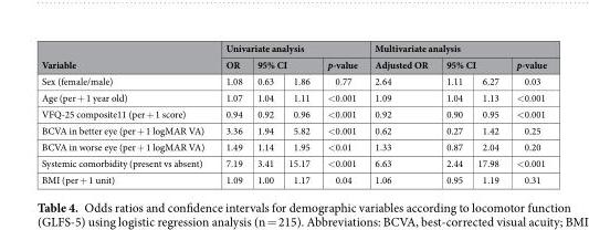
<table><thead><tr><td rowspan="3">Variable Sex (female/male)</td><td colspan="4">Univariate analysis</td><td colspan="4">Multivariate analysis</td></tr><tr><td rowspan="2">OR 1.08</td><td colspan="2">95% CI</td><td rowspan="2">p-value 0.77</td><td rowspan="2">Adjusted OR 2.64</td><td colspan="2">95% CI</td><td rowspan="2">p-value 0.03</td></tr><tr><td>0.63</td><td>1.86</td><td>1.11</td><td>6.27</td></tr></thead><tbody><tr><td>Age (per + 1 year old)</td><td>1.07</td><td>1.04</td><td>1.11</td><td>&lt;0.001</td><td>1.09</td><td>1.04</td><td>1.13</td><td>&lt;0.001</td></tr><tr><td>VFQ-25 composite11 (per + 1 score)</td><td>0.94</td><td>0.92</td><td>0.96</td><td>&lt;0.001</td><td>0.92</td><td>0.90</td><td>0.95</td><td>&lt;0.001</td></tr><tr><td>BCVA in better eye (per + 1 logMAR VA)</td><td>3.36</td><td>1.94</td><td>5.82</td><td>&lt;0.001</td><td>0.62</td><td>0.27</td><td>1.42</td><td>0.25</td></tr><tr><td>BCVA in worse eye (per + 1 logMAR VA)</td><td>1.49</td><td>1.14</td><td>1.95</td><td>&lt;0.01</td><td>1.33</td><td>0.87</td><td>2.04</td><td>0.20</td></tr><tr><td>Systemic comorbidity (present vs absent)</td><td>7.19</td><td>3.41</td><td>15.17</td><td>&lt;0.001</td><td>6.63</td><td>2.44</td><td>17.98</td><td>&lt;0.001</td></tr><tr><td>BMI (per + 1 unit)</td><td>1.09</td><td>1.00</td><td>1.17</td><td>0.04</td><td>1.06</td><td>0.95</td><td>1.19</td><td>0.31</td></tr></tbody></table>